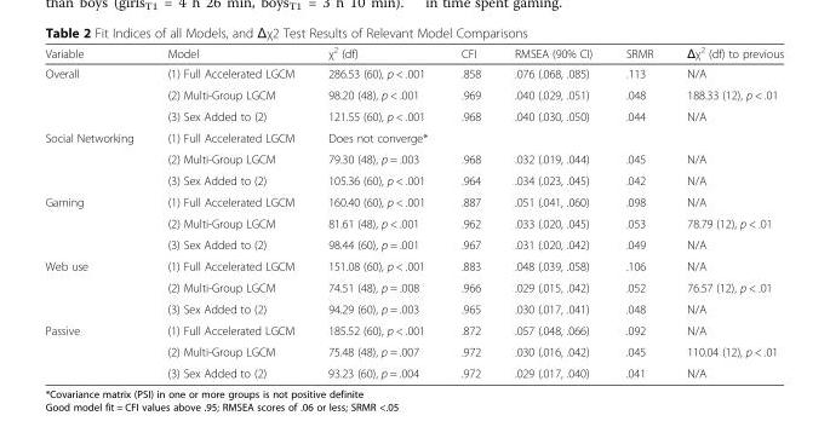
<table><thead><tr><td>Variable</td><td>Model</td><td>χ<sup>2</sup> (df)</td><td>CFI</td><td>RMSEA (90% CI)</td><td>SRMR</td><td>Δχ<sup>2</sup> (df) to previous</td></tr></thead><tbody><tr><td rowspan="3">Overall</td><td>(1) Full Accelerated LGCM</td><td>286.53 (60), p &lt; .001</td><td>.858</td><td>.076 (.068, .085)</td><td>.113</td><td>N/A</td></tr><tr><td>(2) Multi-Group LGCM</td><td>98.20 (48), p &lt; .001</td><td>.969</td><td>.040 (.029, .051)</td><td>.048</td><td>188.33 (12), p &lt; .01</td></tr><tr><td>(3) Sex Added to (2)</td><td>121.55 (60), p &lt; .001</td><td>.968</td><td>.040 (.030, .050)</td><td>.044</td><td>N/A</td></tr><tr><td rowspan="3">Social Networking</td><td>(1) Full Accelerated LGCM</td><td>Does not converge*</td><td></td><td></td><td></td><td></td></tr><tr><td>(2) Multi-Group LGCM</td><td>79.30 (48), p = .003</td><td>.968</td><td>.032 (.019, .044)</td><td>.045</td><td>N/A</td></tr><tr><td>(3) Sex Added to (2)</td><td>105.36 (60), p &lt; .001</td><td>.964</td><td>.034 (.023, .045)</td><td>.042</td><td>N/A</td></tr><tr><td rowspan="3">Gaming</td><td>(1) Full Accelerated LGCM</td><td>160.40 (60), p &lt; .001</td><td>.887</td><td>.051 (.041, .060)</td><td>.098</td><td>N/A</td></tr><tr><td>(2) Multi-Group LGCM</td><td>81.61 (48), p &lt; .001</td><td>.962</td><td>.033 (.020, .045)</td><td>.053</td><td>78.79 (12), p &lt; .01</td></tr><tr><td>(3) Sex Added to (2)</td><td>98.44 (60), p = .001</td><td>.967</td><td>.031 (.020, .042)</td><td>.049</td><td>N/A</td></tr><tr><td rowspan="3">Web use</td><td>(1) Full Accelerated LGCM</td><td>151.08 (60), p &lt; .001</td><td>.883</td><td>.048 (.039, .058)</td><td>.106</td><td>N/A</td></tr><tr><td>(2) Multi-Group LGCM</td><td>74.51 (48), p = .008</td><td>.966</td><td>.029 (.015, .042)</td><td>.052</td><td>76.57 (12), p &lt; .01</td></tr><tr><td>(3) Sex Added to (2)</td><td>94.29 (60), p = .003</td><td>.965</td><td>.030 (.017, .041)</td><td>.048</td><td>N/A</td></tr><tr><td rowspan="3">Passive</td><td>(1) Full Accelerated LGCM</td><td>185.52 (60), p &lt; .001</td><td>.872</td><td>.057 (.048, .066)</td><td>.092</td><td>N/A</td></tr><tr><td>(2) Multi-Group LGCM</td><td>75.48 (48), p = .007</td><td>.972</td><td>.030 (.016, .042)</td><td>.045</td><td>110.04 (12), p &lt; .01</td></tr><tr><td>(3) Sex Added to (2)</td><td>93.23 (60), p = .004</td><td>.972</td><td>.029 (.017, .040)</td><td>.041</td><td>N/A</td></tr></tbody></table>